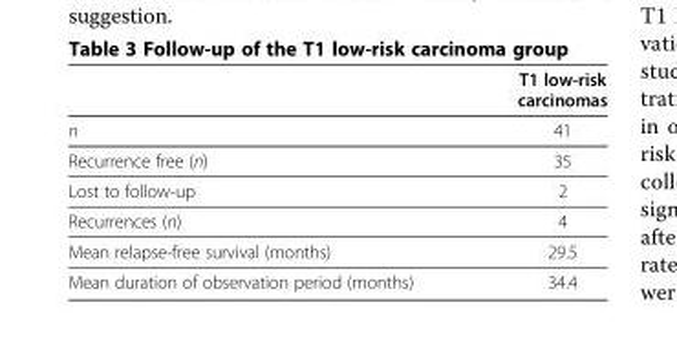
<table><thead><tr><td></td><td>T1 low-risk carcinomas</td></tr></thead><tbody><tr><td>n</td><td>41</td></tr><tr><td>Recurrence free (n)</td><td>35</td></tr><tr><td>Lost to follow-up</td><td>2</td></tr><tr><td>Recurrences (n)</td><td>4</td></tr><tr><td>Mean relapse-free survival (months)</td><td>29.5</td></tr><tr><td>Mean duration of observation period (months)</td><td>34.4</td></tr></tbody></table>